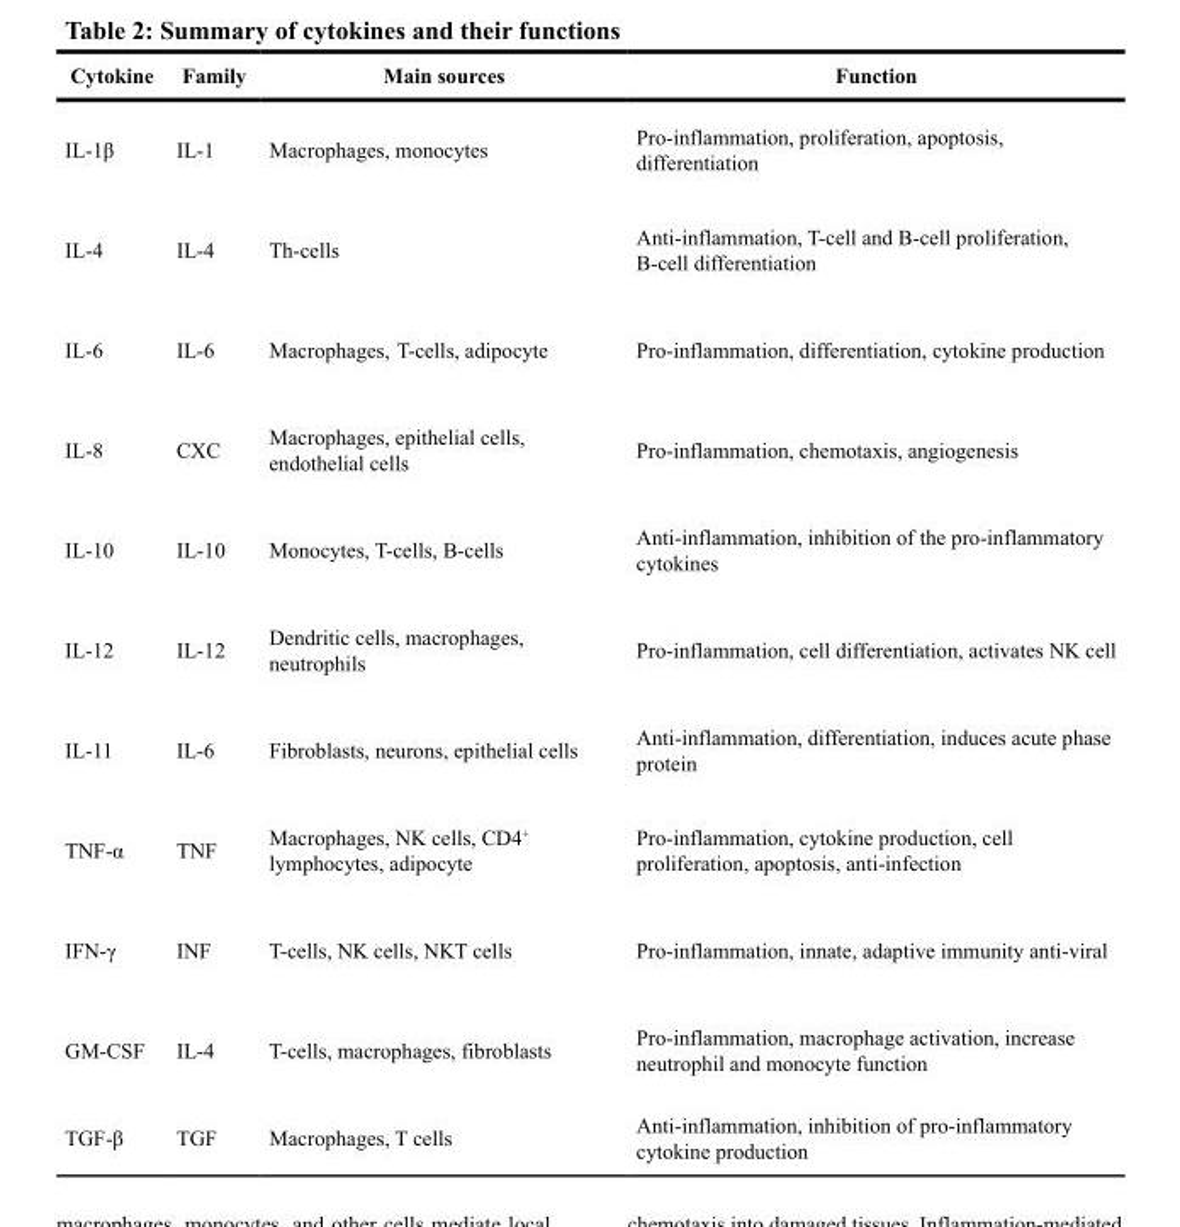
<table><thead><tr><td>Cytokine</td><td>Family</td><td>Main sources</td><td>Function</td></tr></thead><tbody><tr><td>IL-1β</td><td>IL-1</td><td>Macrophages, monocytes</td><td>Pro-inflammation, proliferation, apoptosis, differentiation</td></tr><tr><td>IL-4</td><td>IL-4</td><td>Th-cells</td><td>Anti-inflammation, T-cell and B-cell proliferation, B-cell differentiation</td></tr><tr><td>IL-6</td><td>IL-6</td><td>Macrophages, T-cells, adipocyte</td><td>Pro-inflammation, differentiation, cytokine production</td></tr><tr><td>IL-8</td><td>CXC</td><td>Macrophages, epithelial cells, endothelial cells</td><td>Pro-inflammation, chemotaxis, angiogenesis</td></tr><tr><td>IL-10</td><td>IL-10</td><td>Monocytes, T-cells, B-cells</td><td>Anti-inflammation, inhibition of the pro-inflammatory cytokines</td></tr><tr><td>IL-12</td><td>IL-12</td><td>Dendritic cells, macrophages, neutrophils</td><td>Pro-inflammation, cell differentiation, activates NK cell</td></tr><tr><td>IL-11</td><td>IL-6</td><td>Fibroblasts, neurons, epithelial cells</td><td>Anti-inflammation, differentiation, induces acute phase protein</td></tr><tr><td>TNF-α</td><td>TNF</td><td>Macrophages, NK cells, CD4<sup>+</sup> lymphocytes, adipocyte</td><td>Pro-inflammation, cytokine production, cell proliferation, apoptosis, anti-infection</td></tr><tr><td>IFN-γ</td><td>INF</td><td>T-cells, NK cells, NKT cells</td><td>Pro-inflammation, innate, adaptive immunity anti-viral</td></tr><tr><td>GM-CSF</td><td>IL-4</td><td>T-cells, macrophages, fibroblasts</td><td>Pro-inflammation, macrophage activation, increase neutrophil and monocyte function</td></tr><tr><td>TGF-β</td><td>TGF</td><td>Macrophages, T cells</td><td>Anti-inflammation, inhibition of pro-inflammatory cytokine production</td></tr></tbody></table>